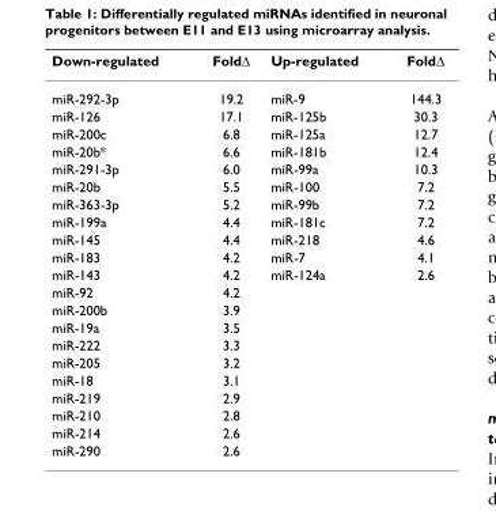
<table><thead><tr><td>Down-regulated</td><td>FoldΔ</td><td>Up-regulated</td><td>FoldΔ</td></tr></thead><tbody><tr><td>miR-292-3p</td><td>19.2</td><td>miR-9</td><td>144.3</td></tr><tr><td>miR-126</td><td>17.1</td><td>miR-125b</td><td>30.3</td></tr><tr><td>miR-200c</td><td>6.8</td><td>miR-125a</td><td>12.7</td></tr><tr><td>miR-20b*</td><td>6.6</td><td>miR-181b</td><td>12.4</td></tr><tr><td>miR-291-3p</td><td>6.0</td><td>miR-99a</td><td>10.3</td></tr><tr><td>miR-20b</td><td>5.5</td><td>miR-100</td><td>7.2</td></tr><tr><td>miR-363-3p</td><td>5.2</td><td>miR-99b</td><td>7.2</td></tr><tr><td>miR-199a</td><td>4.4</td><td>miR-181c</td><td>7.2</td></tr><tr><td>miR-145</td><td>4.4</td><td>miR-218</td><td>4.6</td></tr><tr><td>miR-183</td><td>4.2</td><td>miR-7</td><td>4.1</td></tr><tr><td>miR-143</td><td>4.2</td><td>miR-124a</td><td>2.6</td></tr><tr><td>miR-92</td><td>4.2</td><td></td><td></td></tr><tr><td>miR-200b</td><td>3.9</td><td></td><td></td></tr><tr><td>miR-19a</td><td>3.5</td><td></td><td></td></tr><tr><td>miR-222</td><td>3.3</td><td></td><td></td></tr><tr><td>miR-205</td><td>3.2</td><td></td><td></td></tr><tr><td>miR-18</td><td>3.1</td><td></td><td></td></tr><tr><td>miR-219</td><td>2.9</td><td></td><td></td></tr><tr><td>miR-210</td><td>2.8</td><td></td><td></td></tr><tr><td>miR-214</td><td>2.6</td><td></td><td></td></tr><tr><td>miR-290</td><td>2.6</td><td></td><td></td></tr></tbody></table>